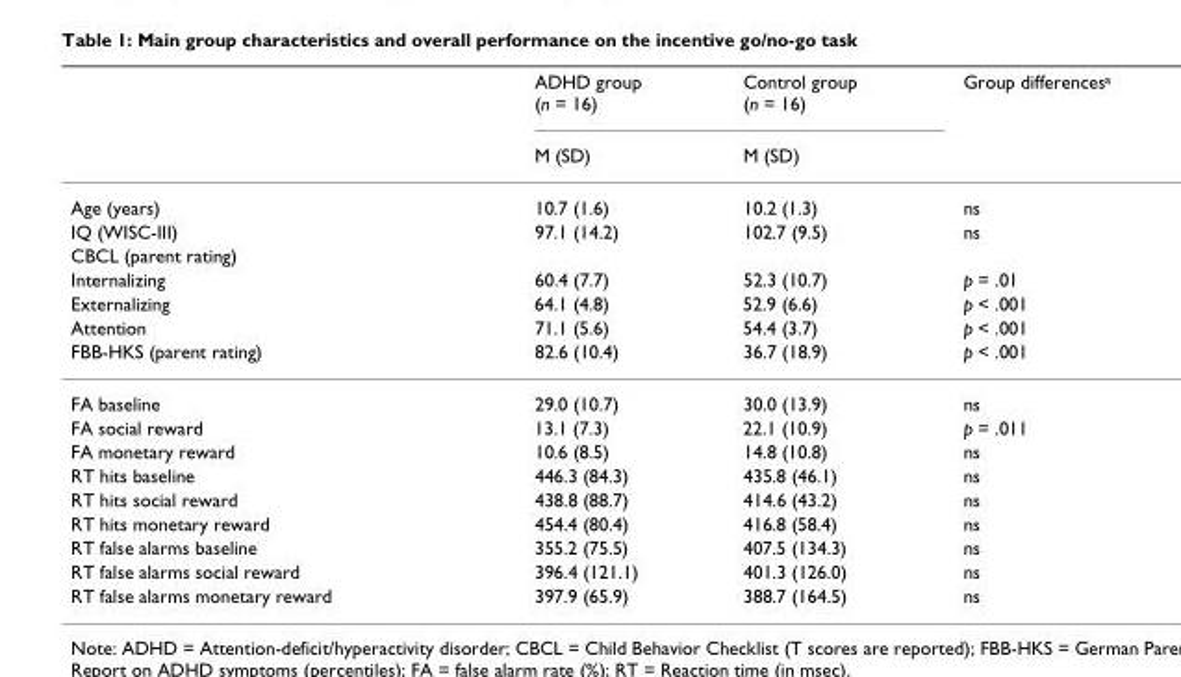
<table><thead><tr><td rowspan="2"></td><td rowspan="2">ADHD group (n = 16) M (SD)</td><td rowspan="2">Control group (n = 16) M (SD)</td><td rowspan="2">Group differences<sup>a</sup></td></tr><tr></tr></thead><tbody><tr><td>Age (years)</td><td>10.7 (1.6)</td><td>10.2 (1.3)</td><td>ns</td></tr><tr><td>IQ (WISC-III)</td><td>97.1 (14.2)</td><td>102.7 (9.5)</td><td>ns</td></tr><tr><td colspan="4">CBCL (parent rating)</td></tr><tr><td>Internalizing</td><td>60.4 (7.7)</td><td>52.3 (10.7)</td><td>p = .01</td></tr><tr><td>Externalizing</td><td>64.1 (4.8)</td><td>52.9 (6.6)</td><td>p &lt; .001</td></tr><tr><td>Attention</td><td>71.1 (5.6)</td><td>54.4 (3.7)</td><td>p &lt; .001</td></tr><tr><td>FBB-HKS (parent rating)</td><td>82.6 (10.4)</td><td>36.7 (18.9)</td><td>p &lt; .001</td></tr><tr><td>FA baseline</td><td>29.0 (10.7)</td><td>30.0 (13.9)</td><td>ns</td></tr><tr><td>FA social reward</td><td>13.1 (7.3)</td><td>22.1 (10.9)</td><td>p = .011</td></tr><tr><td>FA monetary reward</td><td>10.6 (8.5)</td><td>14.8 (10.8)</td><td>ns</td></tr><tr><td>RT hits baseline</td><td>446.3 (84.3)</td><td>435.8 (46.1)</td><td>ns</td></tr><tr><td>RT hits social reward</td><td>438.8 (88.7)</td><td>414.6 (43.2)</td><td>ns</td></tr><tr><td>RT hits monetary reward</td><td>454.4 (80.4)</td><td>416.8 (58.4)</td><td>ns</td></tr><tr><td>RT false alarms baseline</td><td>355.2 (75.5)</td><td>407.5 (134.3)</td><td>ns</td></tr><tr><td>RT false alarms social reward</td><td>396.4 (121.1)</td><td>401.3 (126.0)</td><td>ns</td></tr><tr><td>RT false alarms monetary reward</td><td>397.9 (65.9)</td><td>388.7 (164.5)</td><td>ns</td></tr></tbody></table>